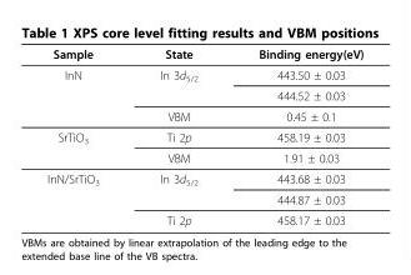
<table><thead><tr><td>Sample</td><td>State</td><td>Binding energy(eV)</td></tr></thead><tbody><tr><td rowspan="3">InN</td><td>In 3d<sub>5/2</sub></td><td>443.50 ± 0.03</td></tr><tr><td></td><td>444.52 ± 0.03</td></tr><tr><td>VBM</td><td>0.45 ± 0.1</td></tr><tr><td rowspan="2">SrTiO<sub>3</sub></td><td>Ti 2p</td><td>458.19 ± 0.03</td></tr><tr><td>VBM</td><td>1.91 ± 0.03</td></tr><tr><td rowspan="3">InN/SrTiO<sub>3</sub></td><td>In 3d<sub>5/2</sub></td><td>443.68 ± 0.03</td></tr><tr><td></td><td>444.87 ± 0.03</td></tr><tr><td>Ti 2p</td><td>458.17 ± 0.03</td></tr></tbody></table>